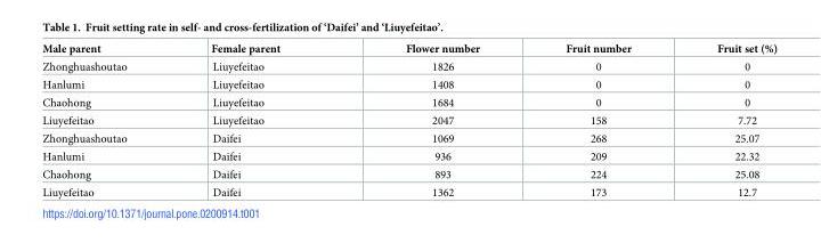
<table><thead><tr><td>Male parent</td><td>Female parent</td><td>Flower number</td><td>Fruit number</td><td>Fruit set (%)</td></tr></thead><tbody><tr><td>Zhonghuashoutao</td><td>Liuyefeitao</td><td>1826</td><td>0</td><td>0</td></tr><tr><td>Hanlumi</td><td>Liuyefeitao</td><td>1408</td><td>0</td><td>0</td></tr><tr><td>Chaohong</td><td>Liuyefeitao</td><td>1684</td><td>0</td><td>0</td></tr><tr><td>Liuyefeitao</td><td>Liuyefeitao</td><td>2047</td><td>158</td><td>7.72</td></tr><tr><td>Zhonghuashoutao</td><td>Daifei</td><td>1069</td><td>268</td><td>25.07</td></tr><tr><td>Hanlumi</td><td>Daifei</td><td>936</td><td>209</td><td>22.32</td></tr><tr><td>Chaohong</td><td>Daifei</td><td>893</td><td>224</td><td>25.08</td></tr><tr><td>Liuyefeitao</td><td>Daifei</td><td>1362</td><td>173</td><td>12.7</td></tr></tbody></table>